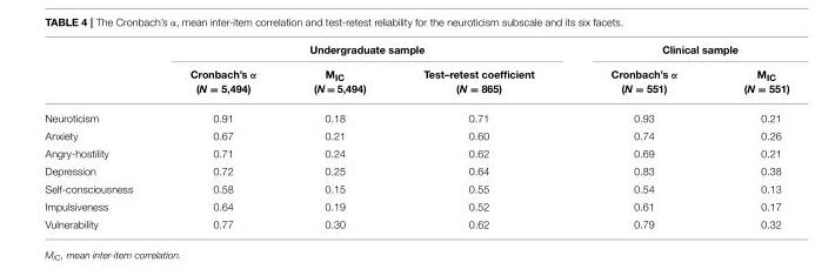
<table><thead><tr><td rowspan="2"></td><td colspan="3">Undergraduate sample</td><td colspan="2">Clinical sample</td></tr><tr><td>Cronbach’s α (N = 5,494)</td><td>M<sub>IC</sub> (N = 5,494)</td><td>Test–retest coefficient (N = 865)</td><td>Cronbach’s α (N = 551)</td><td>M<sub>IC</sub> (N = 551)</td></tr></thead><tbody><tr><td>Neuroticism</td><td>0.91</td><td>0.18</td><td>0.71</td><td>0.93</td><td>0.21</td></tr><tr><td>Anxiety</td><td>0.67</td><td>0.21</td><td>0.60</td><td>0.74</td><td>0.26</td></tr><tr><td>Angry-hostility</td><td>0.71</td><td>0.24</td><td>0.62</td><td>0.69</td><td>0.21</td></tr><tr><td>Depression</td><td>0.72</td><td>0.25</td><td>0.64</td><td>0.83</td><td>0.38</td></tr><tr><td>Self-consciousness</td><td>0.58</td><td>0.15</td><td>0.55</td><td>0.54</td><td>0.13</td></tr><tr><td>Impulsiveness</td><td>0.64</td><td>0.19</td><td>0.52</td><td>0.61</td><td>0.17</td></tr><tr><td>Vulnerability</td><td>0.77</td><td>0.30</td><td>0.62</td><td>0.79</td><td>0.32</td></tr></tbody></table>